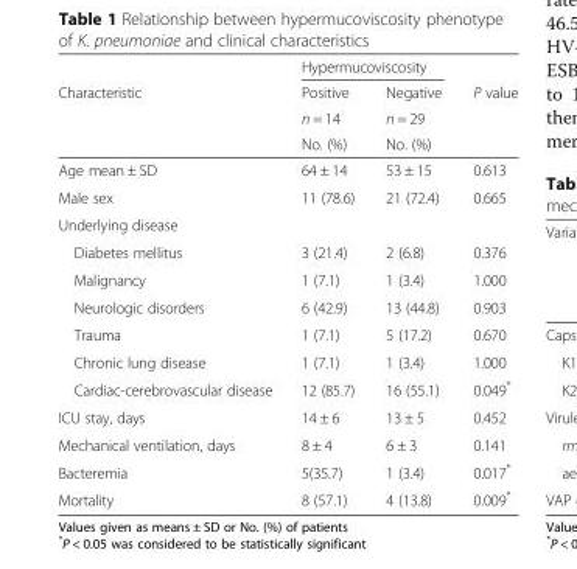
<table><thead><tr><td rowspan="4">Characteristic</td><td colspan="2">Hypermucoviscosity</td><td rowspan="4">P value</td></tr><tr><td rowspan="3">Positive n = 14 No. (%)</td><td rowspan="3">Negative n = 29 No. (%)</td></tr><tr></tr><tr></tr></thead><tbody><tr><td>Age mean ± SD</td><td>64 ± 14</td><td>53 ± 15</td><td>0.613</td></tr><tr><td>Male sex</td><td>11 (78.6)</td><td>21 (72.4)</td><td>0.665</td></tr><tr><td colspan="4">Underlying disease</td></tr><tr><td>Diabetes mellitus</td><td>3 (21.4)</td><td>2 (6.8)</td><td>0.376</td></tr><tr><td>Malignancy</td><td>1 (7.1)</td><td>1 (3.4)</td><td>1.000</td></tr><tr><td>Neurologic disorders</td><td>6 (42.9)</td><td>13 (44.8)</td><td>0.903</td></tr><tr><td>Trauma</td><td>1 (7.1)</td><td>5 (17.2)</td><td>0.670</td></tr><tr><td>Chronic lung disease</td><td>1 (7.1)</td><td>1 (3.4)</td><td>1.000</td></tr><tr><td>Cardiac-cerebrovascular disease</td><td>12 (85.7)</td><td>16 (55.1)</td><td>0.049*</td></tr><tr><td>ICU stay, days</td><td>14 ± 6</td><td>13 ± 5</td><td>0.452</td></tr><tr><td>Mechanical ventilation, days</td><td>8 ± 4</td><td>6 ± 3</td><td>0.141</td></tr><tr><td>Bacteremia</td><td>5(35.7)</td><td>1 (3.4)</td><td>0.017*</td></tr><tr><td>Mortality</td><td>8 (57.1)</td><td>4 (13.8)</td><td>0.009*</td></tr></tbody></table>